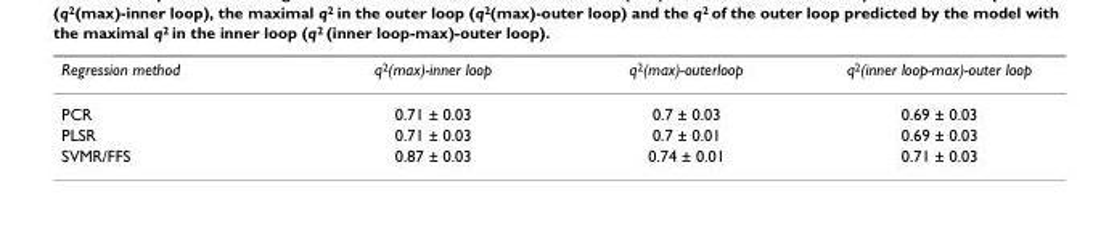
<table><thead><tr><td>Regression method</td><td>q<sup>2</sup>(max)-inner loop</td><td>q<sup>2</sup>(max)-outerloop</td><td>q<sup>2</sup>(inner loop-max)-outer loop</td></tr></thead><tbody><tr><td>PCR</td><td>0.71 ± 0.03</td><td>0.7 ± 0.03</td><td>0.69 ± 0.03</td></tr><tr><td>PLSR</td><td>0.71 ± 0.03</td><td>0.7 ± 0.01</td><td>0.69 ± 0.03</td></tr><tr><td>SVMR/FFS</td><td>0.87 ± 0.03</td><td>0.74 ± 0.01</td><td>0.71 ± 0.03</td></tr></tbody></table>